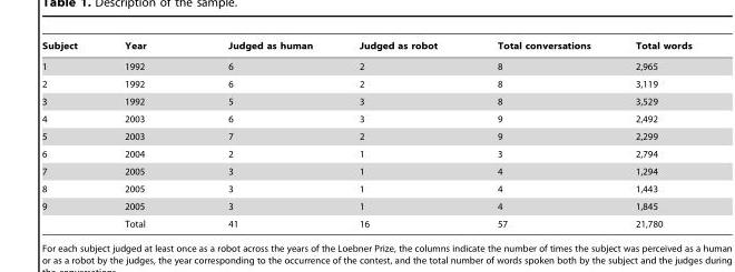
<table><thead><tr><td>Subject</td><td>Year</td><td>Judged as human</td><td>Judged as robot</td><td>Total conversations</td><td>Total words</td></tr></thead><tbody><tr><td>1</td><td>1992</td><td>6</td><td>2</td><td>8</td><td>2,965</td></tr><tr><td>2</td><td>1992</td><td>6</td><td>2</td><td>8</td><td>3,119</td></tr><tr><td>3</td><td>1992</td><td>5</td><td>3</td><td>8</td><td>3,529</td></tr><tr><td>4</td><td>2003</td><td>6</td><td>3</td><td>9</td><td>2,492</td></tr><tr><td>5</td><td>2003</td><td>7</td><td>2</td><td>9</td><td>2,299</td></tr><tr><td>6</td><td>2004</td><td>2</td><td>1</td><td>3</td><td>2,794</td></tr><tr><td>7</td><td>2005</td><td>3</td><td>1</td><td>4</td><td>1,294</td></tr><tr><td>8</td><td>2005</td><td>3</td><td>1</td><td>4</td><td>1,443</td></tr><tr><td rowspan="2">9</td><td>2005</td><td>3</td><td>1</td><td>4</td><td>1,845</td></tr><tr><td>Total</td><td>41</td><td>16</td><td>57</td><td>21,780</td></tr></tbody></table>